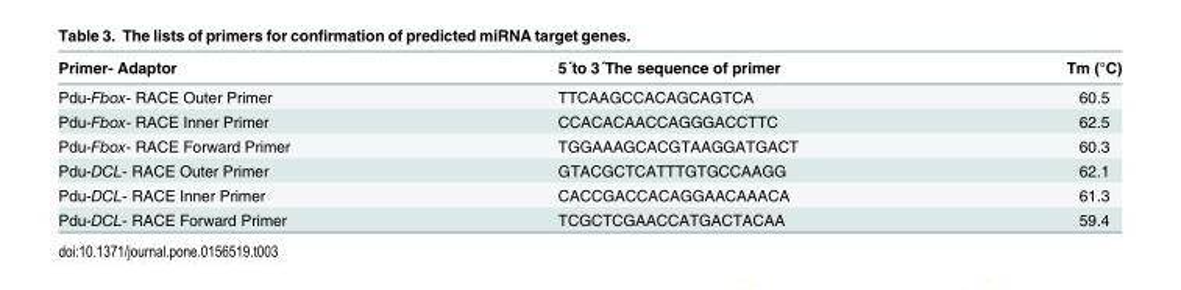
<table><thead><tr><td>Primer- Adaptor</td><td>5´to 3´The sequence of primer</td><td>Tm (°C)</td></tr></thead><tbody><tr><td>Pdu-Fbox- RACE Outer Primer</td><td>TTCAAGCCACAGCAGTCA</td><td>60.5</td></tr><tr><td>Pdu-Fbox- RACE Inner Primer</td><td>CCACACAACCAGGGACCTTC</td><td>62.5</td></tr><tr><td>Pdu-Fbox- RACE Forward Primer</td><td>TGGAAAGCACGTAAGGATGACT</td><td>60.3</td></tr><tr><td>Pdu-DCL- RACE Outer Primer</td><td>GTACGCTCATTTGTGCCAAGG</td><td>62.1</td></tr><tr><td>Pdu-DCL- RACE Inner Primer</td><td>CACCGACCACAGGAACAAACA</td><td>61.3</td></tr><tr><td>Pdu-DCL- RACE Forward Primer</td><td>TCGCTCGAACCATGACTACAA</td><td>59.4</td></tr></tbody></table>